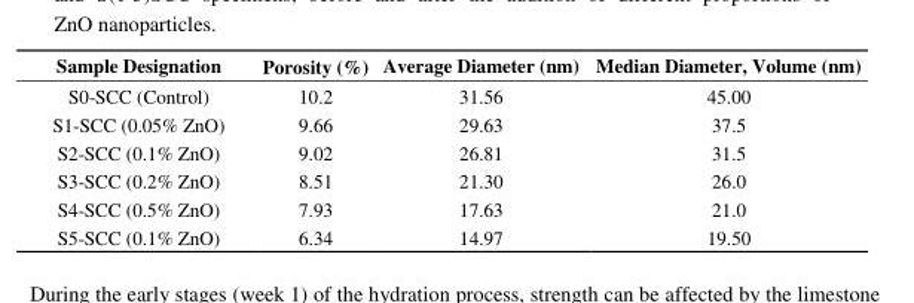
<table><thead><tr><td>Sample Designation</td><td>Porosity (%)</td><td>Average Diameter (nm)</td><td>Median Diameter, Volume (nm)</td></tr></thead><tbody><tr><td>S0-SCC (Control)</td><td>10.2</td><td>31.56</td><td>45.00</td></tr><tr><td>S1-SCC (0.05% ZnO)</td><td>9.66</td><td>29.63</td><td>37.5</td></tr><tr><td>S2-SCC (0.1% ZnO)</td><td>9.02</td><td>26.81</td><td>31.5</td></tr><tr><td>S3-SCC (0.2% ZnO)</td><td>8.51</td><td>21.30</td><td>26.0</td></tr><tr><td>S4-SCC (0.5% ZnO)</td><td>7.93</td><td>17.63</td><td>21.0</td></tr><tr><td>S5-SCC (0.1% ZnO)</td><td>6.34</td><td>14.97</td><td>19.50</td></tr></tbody></table>